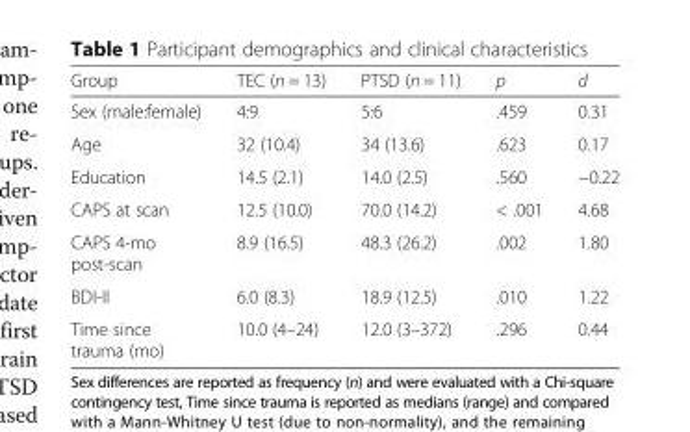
<table><thead><tr><td>Group</td><td>TEC (n = 13)</td><td>PTSD (n = 11)</td><td>p</td><td>d</td></tr></thead><tbody><tr><td>Sex (male:female)</td><td>4:9</td><td>5:6</td><td>.459</td><td>0.31</td></tr><tr><td>Age</td><td>32 (10.4)</td><td>34 (13.6)</td><td>.623</td><td>0.17</td></tr><tr><td>Education</td><td>14.5 (2.1)</td><td>14.0 (2.5)</td><td>.560</td><td>−0.22</td></tr><tr><td>CAPS at scan</td><td>12.5 (10.0)</td><td>70.0 (14.2)</td><td>&lt; .001</td><td>4.68</td></tr><tr><td>CAPS 4-mo post-scan</td><td>8.9 (16.5)</td><td>48.3 (26.2)</td><td>.002</td><td>1.80</td></tr><tr><td>BDI-II</td><td>6.0 (8.3)</td><td>18.9 (12.5)</td><td>.010</td><td>1.22</td></tr><tr><td>Time since trauma (mo)</td><td>10.0 (4–24)</td><td>12.0 (3–372)</td><td>.296</td><td>0.44</td></tr></tbody></table>